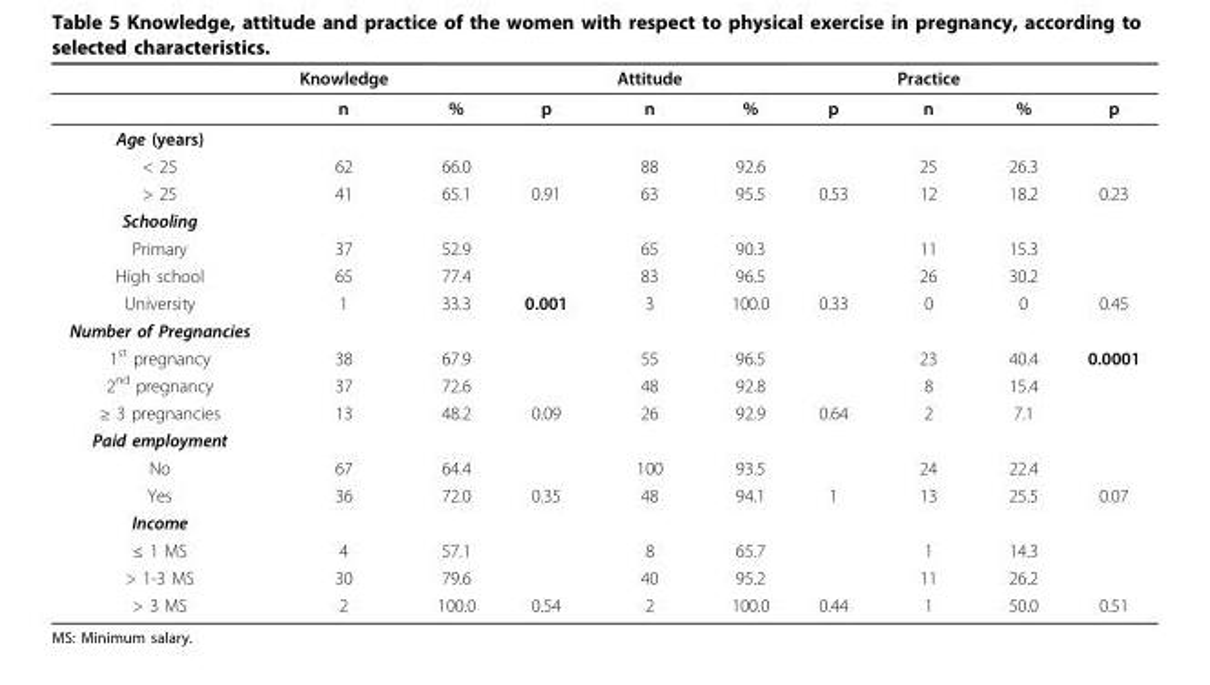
<table><thead><tr><td></td><td>Knowledge</td><td></td><td></td><td>Attitude</td><td></td><td></td><td>Practice</td><td></td><td></td></tr></thead><tbody><tr><td></td><td>n</td><td>%</td><td>p</td><td>n</td><td>%</td><td>p</td><td>n</td><td>%</td><td>p</td></tr><tr><td colspan="10">Age (years)</td></tr><tr><td>&lt; 25</td><td>62</td><td>66.0</td><td></td><td>88</td><td>92.6</td><td></td><td>25</td><td>26.3</td><td></td></tr><tr><td>&gt; 25</td><td>41</td><td>65.1</td><td>0.91</td><td>63</td><td>95.5</td><td>0.53</td><td>12</td><td>18.2</td><td>0.23</td></tr><tr><td colspan="10">Schooling</td></tr><tr><td>Primary</td><td>37</td><td>52.9</td><td></td><td>65</td><td>90.3</td><td></td><td>11</td><td>15.3</td><td></td></tr><tr><td>High school</td><td>65</td><td>77.4</td><td></td><td>83</td><td>96.5</td><td></td><td>26</td><td>30.2</td><td></td></tr><tr><td>University</td><td>1</td><td>33.3</td><td>0.001</td><td>3</td><td>100.0</td><td>0.33</td><td>0</td><td>0</td><td>0.45</td></tr><tr><td colspan="10">Number of Pregnancies</td></tr><tr><td>1<sup>st</sup> pregnancy</td><td>38</td><td>67.9</td><td></td><td>55</td><td>96.5</td><td></td><td>23</td><td>40.4</td><td>0.0001</td></tr><tr><td>2<sup>nd</sup> pregnancy</td><td>37</td><td>72.6</td><td></td><td>48</td><td>92.8</td><td></td><td>8</td><td>15.4</td><td></td></tr><tr><td>≥ 3 pregnancies</td><td>13</td><td>48.2</td><td>0.09</td><td>26</td><td>92.9</td><td>0.64</td><td>2</td><td>7.1</td><td></td></tr><tr><td colspan="10">Paid employment</td></tr><tr><td>No</td><td>67</td><td>64.4</td><td></td><td>100</td><td>93.5</td><td></td><td>24</td><td>22.4</td><td></td></tr><tr><td>Yes</td><td>36</td><td>72.0</td><td>0.35</td><td>48</td><td>94.1</td><td>1</td><td>13</td><td>25.5</td><td>0.07</td></tr><tr><td colspan="10">Income</td></tr><tr><td>≤ 1 MS</td><td>4</td><td>57.1</td><td></td><td>8</td><td>65.7</td><td></td><td>1</td><td>14.3</td><td></td></tr><tr><td>&gt; 1-3 MS</td><td>30</td><td>79.6</td><td></td><td>40</td><td>95.2</td><td></td><td>11</td><td>26.2</td><td></td></tr><tr><td>&gt; 3 MS</td><td>2</td><td>100.0</td><td>0.54</td><td>2</td><td>100.0</td><td>0.44</td><td>1</td><td>50.0</td><td>0.51</td></tr></tbody></table>